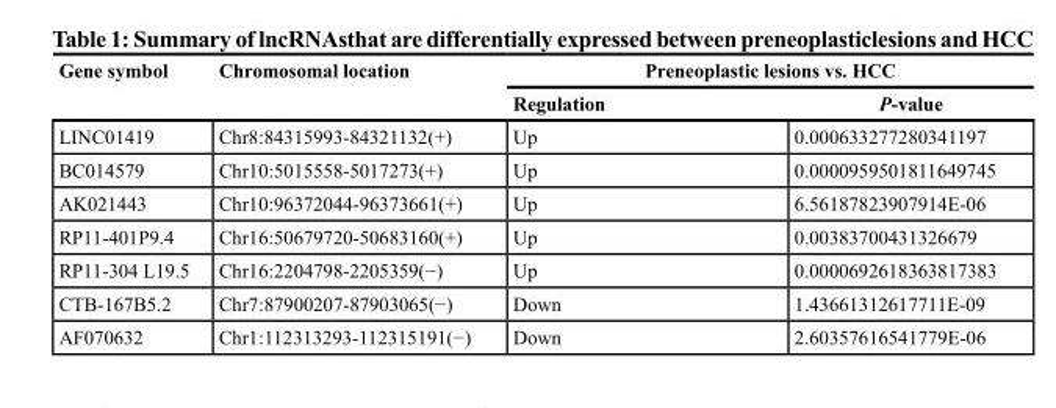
<table><thead><tr><td rowspan="2">Gene symbol</td><td rowspan="2">Chromosomal location</td><td colspan="2">Preneoplastic lesions vs. HCC</td></tr><tr><td>Regulation</td><td>P-value</td></tr></thead><tbody><tr><td>LINC01419</td><td>Chr8:84315993-84321132(+)</td><td>Up</td><td>0.000633277280341197</td></tr><tr><td>BC014579</td><td>Chr10:5015558-5017273(+)</td><td>Up</td><td>0.0000959501811649745</td></tr><tr><td>AK021443</td><td>Chr10:96372044-96373661(+)</td><td>Up</td><td>6.56187823907914E-06</td></tr><tr><td>RP11-401P9.4</td><td>Chr16:50679720-50683160(+)</td><td>Up</td><td>0.00383700431326679</td></tr><tr><td>RP11-304 L19.5</td><td>Chr16:2204798-2205359(−)</td><td>Up</td><td>0.0000692618363817383</td></tr><tr><td>CTB-167B5.2</td><td>Chr7:87900207-87903065(−)</td><td>Down</td><td>1.43661312617711E-09</td></tr><tr><td>AF070632</td><td>Chr1:112313293-112315191(−)</td><td>Down</td><td>2.60357616541779E-06</td></tr></tbody></table>